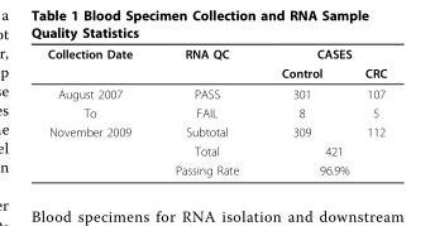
<table><thead><tr><td rowspan="2">Collection Date</td><td rowspan="2">RNA QC</td><td colspan="2">CASES</td></tr><tr><td>Control</td><td>CRC</td></tr></thead><tbody><tr><td>August 2007</td><td>PASS</td><td>301</td><td>107</td></tr><tr><td>To</td><td>FAIL</td><td>8</td><td>5</td></tr><tr><td rowspan="3">November 2009</td><td>Subtotal</td><td>309</td><td>112</td></tr><tr><td>Total</td><td colspan="2">421</td></tr><tr><td>Passing Rate</td><td colspan="2">96.9%</td></tr></tbody></table>